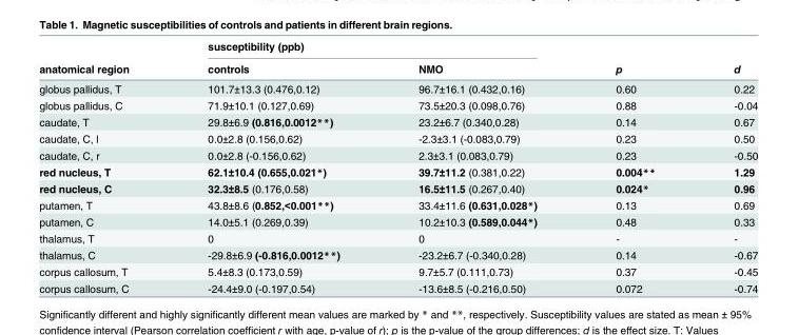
<table><thead><tr><td rowspan="2">anatomical region</td><td colspan="2">susceptibility (ppb)</td><td rowspan="2">p</td><td rowspan="2">d</td></tr><tr><td>controls</td><td>NMO</td></tr></thead><tbody><tr><td>globus pallidus, T</td><td>101.7±13.3 (0.476,0.12)</td><td>96.7±16.1 (0.432,0.16)</td><td>0.60</td><td>0.22</td></tr><tr><td>globus pallidus, C</td><td>71.9±10.1 (0.127,0.69)</td><td>73.5±20.3 (0.098,0.76)</td><td>0.88</td><td>-0.04</td></tr><tr><td>caudate, T</td><td>29.8±6.9 (0.816,0.0012**)</td><td>23.2±6.7 (0.340,0.28)</td><td>0.14</td><td>0.67</td></tr><tr><td>caudate, C, l</td><td>0.0±2.8 (0.156,0.62)</td><td>-2.3±3.1 (-0.083,0.79)</td><td>0.23</td><td>0.50</td></tr><tr><td>caudate, C, r</td><td>0.0±2.8 (-0.156,0.62)</td><td>2.3±3.1 (0.083,0.79)</td><td>0.23</td><td>-0.50</td></tr><tr><td>red nucleus, T</td><td>62.1±10.4 (0.655,0.021*)</td><td>39.7±11.2 (0.381,0.22)</td><td>0.004**</td><td>1.29</td></tr><tr><td>red nucleus, C</td><td>32.3±8.5 (0.176,0.58)</td><td>16.5±11.5 (0.267,0.40)</td><td>0.024*</td><td>0.96</td></tr><tr><td>putamen, T</td><td>43.8±8.6 (0.852,&lt;0.001**)</td><td>33.4±11.6 (0.631,0.028*)</td><td>0.13</td><td>0.69</td></tr><tr><td>putamen, C</td><td>14.0±5.1 (0.269,0.39)</td><td>10.2±10.3 (0.589,0.044*)</td><td>0.48</td><td>0.33</td></tr><tr><td>thalamus, T</td><td>0</td><td>0</td><td>-</td><td>-</td></tr><tr><td>thalamus, C</td><td>-29.8±6.9 (-0.816,0.0012**)</td><td>-23.2±6.7 (-0.340,0.28)</td><td>0.14</td><td>-0.67</td></tr><tr><td>corpus callosum, T</td><td>5.4±8.3 (0.173,0.59)</td><td>9.7±5.7 (0.111,0.73)</td><td>0.37</td><td>-0.45</td></tr><tr><td>corpus callosum, C</td><td>-24.4±9.0 (-0.197,0.54)</td><td>-13.6±8.5 (-0.216,0.50)</td><td>0.072</td><td>-0.74</td></tr></tbody></table>